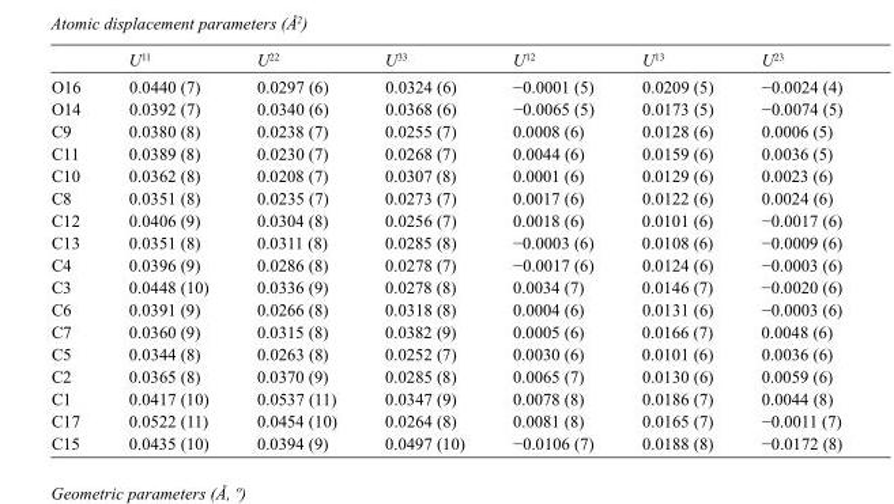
<table><thead><tr><td></td><td>U<sup>11</sup></td><td>U<sup>22</sup></td><td>U<sup>33</sup></td><td>U<sup>12</sup></td><td>U<sup>13</sup></td><td>U<sup>23</sup></td></tr></thead><tbody><tr><td>O16</td><td>0.0440 (7)</td><td>0.0297 (6)</td><td>0.0324 (6)</td><td>−0.0001 (5)</td><td>0.0209 (5)</td><td>−0.0024 (4)</td></tr><tr><td>O14</td><td>0.0392 (7)</td><td>0.0340 (6)</td><td>0.0368 (6)</td><td>−0.0065 (5)</td><td>0.0173 (5)</td><td>−0.0074 (5)</td></tr><tr><td>C9</td><td>0.0380 (8)</td><td>0.0238 (7)</td><td>0.0255 (7)</td><td>0.0008 (6)</td><td>0.0128 (6)</td><td>0.0006 (5)</td></tr><tr><td>C11</td><td>0.0389 (8)</td><td>0.0230 (7)</td><td>0.0268 (7)</td><td>0.0044 (6)</td><td>0.0159 (6)</td><td>0.0036 (5)</td></tr><tr><td>C10</td><td>0.0362 (8)</td><td>0.0208 (7)</td><td>0.0307 (8)</td><td>0.0001 (6)</td><td>0.0129 (6)</td><td>0.0023 (6)</td></tr><tr><td>C8</td><td>0.0351 (8)</td><td>0.0235 (7)</td><td>0.0273 (7)</td><td>0.0017 (6)</td><td>0.0122 (6)</td><td>0.0024 (6)</td></tr><tr><td>C12</td><td>0.0406 (9)</td><td>0.0304 (8)</td><td>0.0256 (7)</td><td>0.0018 (6)</td><td>0.0101 (6)</td><td>−0.0017 (6)</td></tr><tr><td>C13</td><td>0.0351 (8)</td><td>0.0311 (8)</td><td>0.0285 (8)</td><td>−0.0003 (6)</td><td>0.0108 (6)</td><td>−0.0009 (6)</td></tr><tr><td>C4</td><td>0.0396 (9)</td><td>0.0286 (8)</td><td>0.0278 (7)</td><td>−0.0017 (6)</td><td>0.0124 (6)</td><td>−0.0003 (6)</td></tr><tr><td>C3</td><td>0.0448 (10)</td><td>0.0336 (9)</td><td>0.0278 (8)</td><td>0.0034 (7)</td><td>0.0146 (7)</td><td>−0.0020 (6)</td></tr><tr><td>C6</td><td>0.0391 (9)</td><td>0.0266 (8)</td><td>0.0318 (8)</td><td>0.0004 (6)</td><td>0.0131 (6)</td><td>−0.0003 (6)</td></tr><tr><td>C7</td><td>0.0360 (9)</td><td>0.0315 (8)</td><td>0.0382 (9)</td><td>0.0005 (6)</td><td>0.0166 (7)</td><td>0.0048 (6)</td></tr><tr><td>C5</td><td>0.0344 (8)</td><td>0.0263 (8)</td><td>0.0252 (7)</td><td>0.0030 (6)</td><td>0.0101 (6)</td><td>0.0036 (6)</td></tr><tr><td>C2</td><td>0.0365 (8)</td><td>0.0370 (9)</td><td>0.0285 (8)</td><td>0.0065 (7)</td><td>0.0130 (6)</td><td>0.0059 (6)</td></tr><tr><td>C1</td><td>0.0417 (10)</td><td>0.0537 (11)</td><td>0.0347 (9)</td><td>0.0078 (8)</td><td>0.0186 (7)</td><td>0.0044 (8)</td></tr><tr><td>C17</td><td>0.0522 (11)</td><td>0.0454 (10)</td><td>0.0264 (8)</td><td>0.0081 (8)</td><td>0.0165 (7)</td><td>−0.0011 (7)</td></tr><tr><td>C15</td><td>0.0435 (10)</td><td>0.0394 (9)</td><td>0.0497 (10)</td><td>−0.0106 (7)</td><td>0.0188 (8)</td><td>−0.0172 (8)</td></tr></tbody></table>